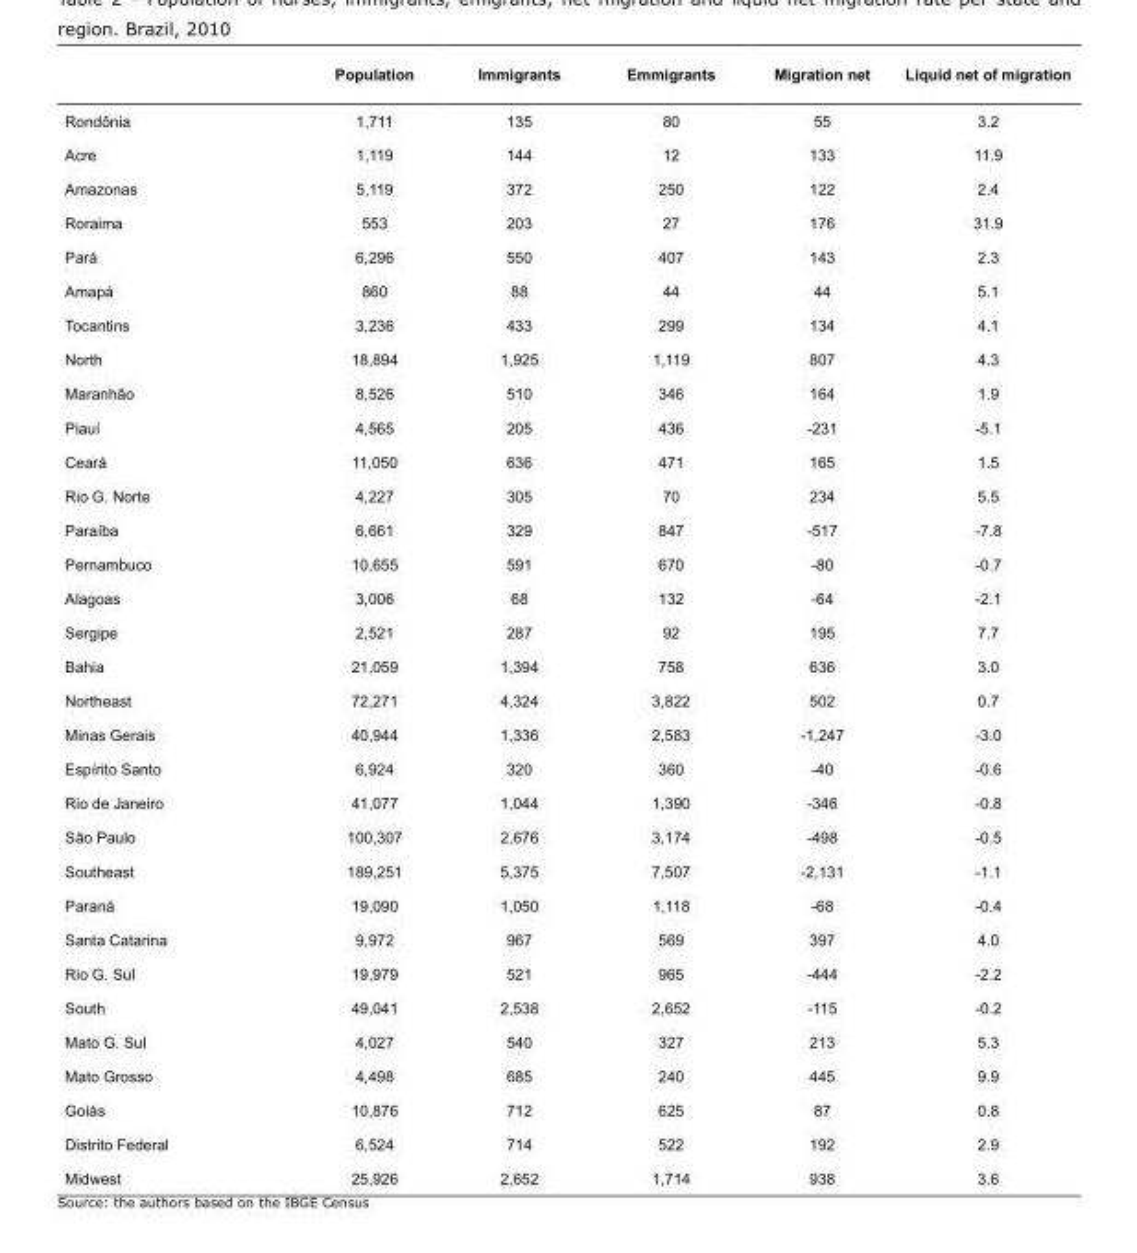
<table><thead><tr><td></td><td>Population</td><td>Immigrants</td><td>Emmigrants</td><td>Migration net</td><td>Liquid net of migration</td></tr></thead><tbody><tr><td>Rondônia</td><td>1,711</td><td>135</td><td>80</td><td>55</td><td>3.2</td></tr><tr><td>Acre</td><td>1,119</td><td>144</td><td>12</td><td>133</td><td>11.9</td></tr><tr><td>Amazonas</td><td>5,119</td><td>372</td><td>250</td><td>122</td><td>2.4</td></tr><tr><td>Roraima</td><td>553</td><td>203</td><td>27</td><td>176</td><td>31.9</td></tr><tr><td>Pará</td><td>6,296</td><td>550</td><td>407</td><td>143</td><td>2.3</td></tr><tr><td>Amapá</td><td>860</td><td>88</td><td>44</td><td>44</td><td>5.1</td></tr><tr><td>Tocantins</td><td>3,236</td><td>433</td><td>299</td><td>134</td><td>4.1</td></tr><tr><td>North</td><td>18,894</td><td>1,925</td><td>1,119</td><td>807</td><td>4.3</td></tr><tr><td>Maranhão</td><td>8,526</td><td>510</td><td>346</td><td>164</td><td>1.9</td></tr><tr><td>Piauí</td><td>4,565</td><td>205</td><td>436</td><td>-231</td><td>-5.1</td></tr><tr><td>Ceará</td><td>11,050</td><td>636</td><td>471</td><td>165</td><td>1.5</td></tr><tr><td>Rio G. Norte</td><td>4,227</td><td>305</td><td>70</td><td>234</td><td>5.5</td></tr><tr><td>Paraíba</td><td>6,661</td><td>329</td><td>847</td><td>-517</td><td>-7.8</td></tr><tr><td>Pernambuco</td><td>10,655</td><td>591</td><td>670</td><td>-80</td><td>-0.7</td></tr><tr><td>Alagoas</td><td>3,006</td><td>68</td><td>132</td><td>-64</td><td>-2.1</td></tr><tr><td>Sergipe</td><td>2,521</td><td>287</td><td>92</td><td>195</td><td>7.7</td></tr><tr><td>Bahia</td><td>21,059</td><td>1,394</td><td>758</td><td>636</td><td>3.0</td></tr><tr><td>Northeast</td><td>72,271</td><td>4,324</td><td>3,822</td><td>502</td><td>0.7</td></tr><tr><td>Minas Gerais</td><td>40,944</td><td>1,336</td><td>2,583</td><td>-1,247</td><td>-3.0</td></tr><tr><td>Espírito Santo</td><td>6,924</td><td>320</td><td>360</td><td>-40</td><td>-0.6</td></tr><tr><td>Rio de Janeiro</td><td>41,077</td><td>1,044</td><td>1,390</td><td>-346</td><td>-0.8</td></tr><tr><td>São Paulo</td><td>100,307</td><td>2,676</td><td>3,174</td><td>-498</td><td>-0.5</td></tr><tr><td>Southeast</td><td>189,251</td><td>5,375</td><td>7,507</td><td>-2,131</td><td>-1.1</td></tr><tr><td>Paraná</td><td>19,090</td><td>1,050</td><td>1,118</td><td>-68</td><td>-0.4</td></tr><tr><td>Santa Catarina</td><td>9,972</td><td>967</td><td>569</td><td>397</td><td>4.0</td></tr><tr><td>Rio G. Sul</td><td>19,979</td><td>521</td><td>965</td><td>-444</td><td>-2.2</td></tr><tr><td>South</td><td>49,041</td><td>2,538</td><td>2,652</td><td>-115</td><td>-0.2</td></tr><tr><td>Mato G. Sul</td><td>4,027</td><td>540</td><td>327</td><td>213</td><td>5.3</td></tr><tr><td>Mato Grosso</td><td>4,498</td><td>685</td><td>240</td><td>445</td><td>9.9</td></tr><tr><td>Goiás</td><td>10,876</td><td>712</td><td>625</td><td>87</td><td>0.8</td></tr><tr><td>Distrito Federal</td><td>6,524</td><td>714</td><td>522</td><td>192</td><td>2.9</td></tr><tr><td>Midwest</td><td>25,926</td><td>2,652</td><td>1,714</td><td>938</td><td>3.6</td></tr></tbody></table>